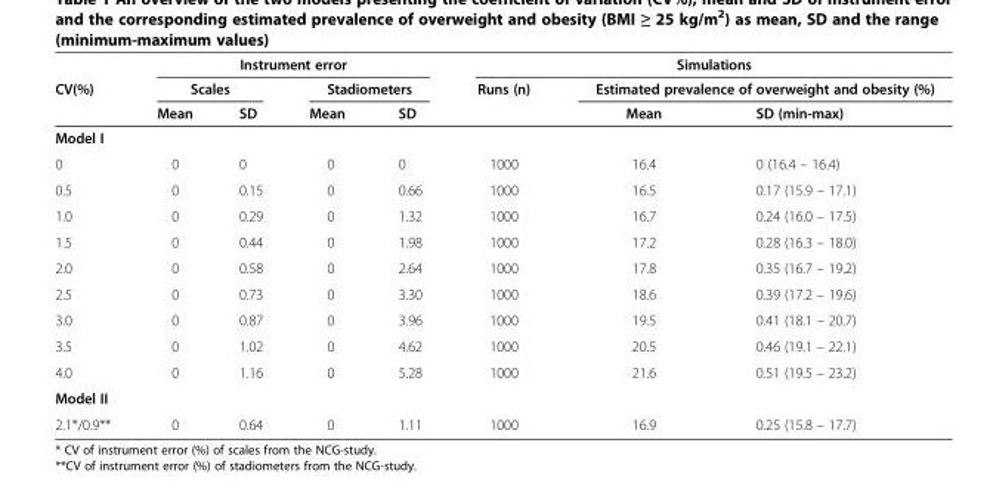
<table><thead><tr><td rowspan="3">CV(%)</td><td colspan="4">Instrument error</td><td colspan="3">Simulations</td></tr><tr><td colspan="2">Scales</td><td colspan="2">Stadiometers</td><td rowspan="2">Runs (n)</td><td colspan="2">Estimated prevalence of overweight and obesity (%)</td></tr><tr><td>Mean</td><td>SD</td><td>Mean</td><td>SD</td><td>Mean</td><td>SD (min-max)</td></tr></thead><tbody><tr><td colspan="8">Model I</td></tr><tr><td>0</td><td>0</td><td>0</td><td>0</td><td>0</td><td>1000</td><td>16.4</td><td>0 (16.4 – 16.4)</td></tr><tr><td>0.5</td><td>0</td><td>0.15</td><td>0</td><td>0.66</td><td>1000</td><td>16.5</td><td>0.17 (15.9 – 17.1)</td></tr><tr><td>1.0</td><td>0</td><td>0.29</td><td>0</td><td>1.32</td><td>1000</td><td>16.7</td><td>0.24 (16.0 – 17.5)</td></tr><tr><td>1.5</td><td>0</td><td>0.44</td><td>0</td><td>1.98</td><td>1000</td><td>17.2</td><td>0.28 (16.3 – 18.0)</td></tr><tr><td>2.0</td><td>0</td><td>0.58</td><td>0</td><td>2.64</td><td>1000</td><td>17.8</td><td>0.35 (16.7 – 19.2)</td></tr><tr><td>2.5</td><td>0</td><td>0.73</td><td>0</td><td>3.30</td><td>1000</td><td>18.6</td><td>0.39 (17.2 – 19.6)</td></tr><tr><td>3.0</td><td>0</td><td>0.87</td><td>0</td><td>3.96</td><td>1000</td><td>19.5</td><td>0.41 (18.1 – 20.7)</td></tr><tr><td>3.5</td><td>0</td><td>1.02</td><td>0</td><td>4.62</td><td>1000</td><td>20.5</td><td>0.46 (19.1 – 22.1)</td></tr><tr><td>4.0</td><td>0</td><td>1.16</td><td>0</td><td>5.28</td><td>1000</td><td>21.6</td><td>0.51 (19.5 – 23.2)</td></tr><tr><td colspan="8">Model II</td></tr><tr><td>2.1*/0.9**</td><td>0</td><td>0.64</td><td>0</td><td>1.11</td><td>1000</td><td>16.9</td><td>0.25 (15.8 – 17.7)</td></tr></tbody></table>